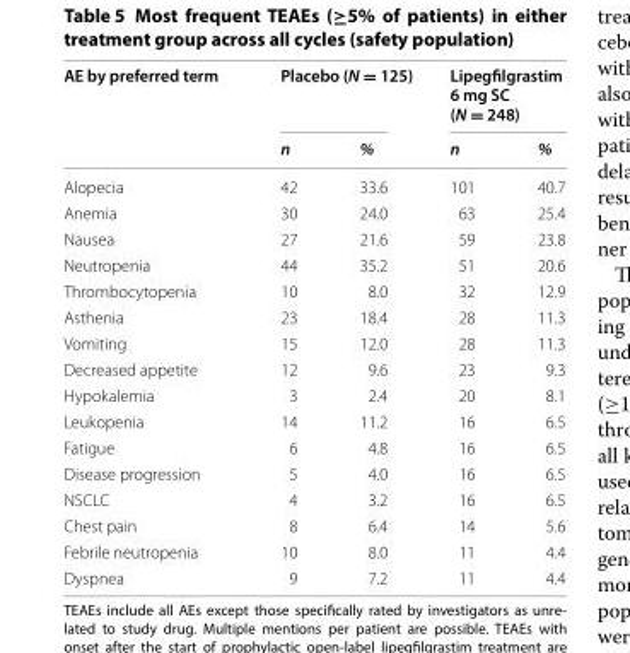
<table><thead><tr><td rowspan="2">AE by preferred term</td><td colspan="2">Placebo (N = 125)</td><td colspan="2">Lipegfilgrastim 6 mg SC (N = 248)</td></tr><tr><td>n</td><td>%</td><td>n</td><td>%</td></tr></thead><tbody><tr><td>Alopecia</td><td>42</td><td>33.6</td><td>101</td><td>40.7</td></tr><tr><td>Anemia</td><td>30</td><td>24.0</td><td>63</td><td>25.4</td></tr><tr><td>Nausea</td><td>27</td><td>21.6</td><td>59</td><td>23.8</td></tr><tr><td>Neutropenia</td><td>44</td><td>35.2</td><td>51</td><td>20.6</td></tr><tr><td>Thrombocytopenia</td><td>10</td><td>8.0</td><td>32</td><td>12.9</td></tr><tr><td>Asthenia</td><td>23</td><td>18.4</td><td>28</td><td>11.3</td></tr><tr><td>Vomiting</td><td>15</td><td>12.0</td><td>28</td><td>11.3</td></tr><tr><td>Decreased appetite</td><td>12</td><td>9.6</td><td>23</td><td>9.3</td></tr><tr><td>Hypokalemia</td><td>3</td><td>2.4</td><td>20</td><td>8.1</td></tr><tr><td>Leukopenia</td><td>14</td><td>11.2</td><td>16</td><td>6.5</td></tr><tr><td>Fatigue</td><td>6</td><td>4.8</td><td>16</td><td>6.5</td></tr><tr><td>Disease progression</td><td>5</td><td>4.0</td><td>16</td><td>6.5</td></tr><tr><td>NSCLC</td><td>4</td><td>3.2</td><td>16</td><td>6.5</td></tr><tr><td>Chest pain</td><td>8</td><td>6.4</td><td>14</td><td>5.6</td></tr><tr><td>Febrile neutropenia</td><td>10</td><td>8.0</td><td>11</td><td>4.4</td></tr><tr><td>Dyspnea</td><td>9</td><td>7.2</td><td>11</td><td>4.4</td></tr></tbody></table>